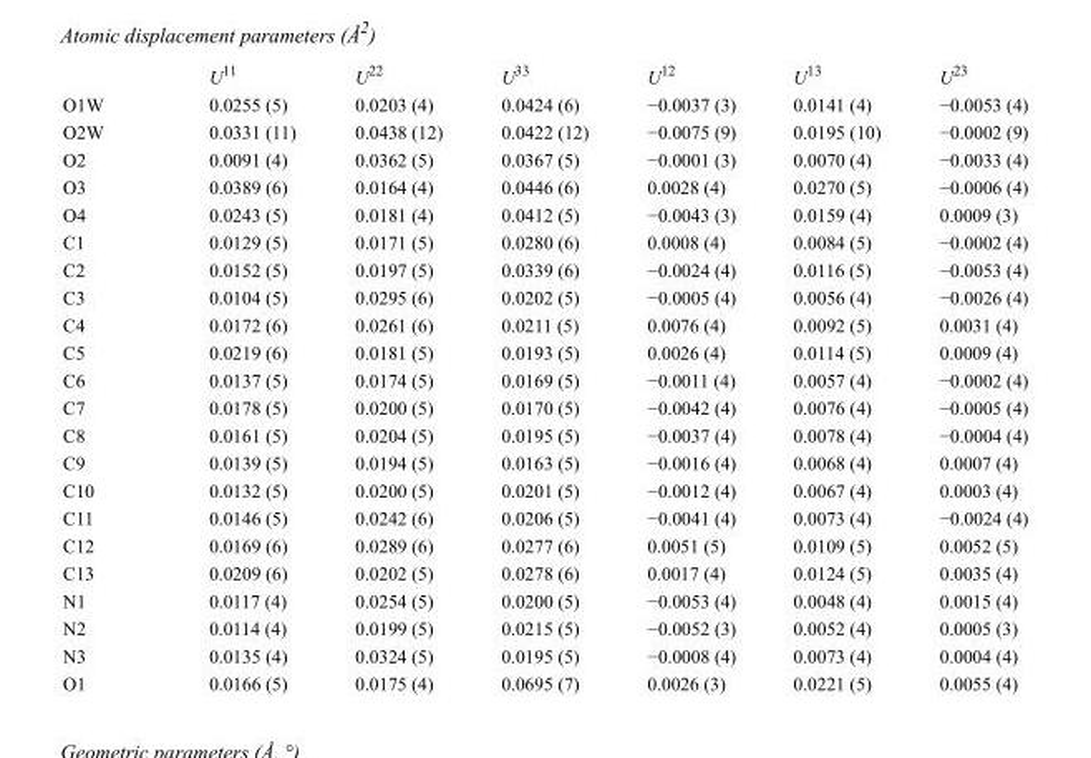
<table><thead><tr><td></td><td>U<sup>11</sup></td><td>U<sup>22</sup></td><td>U<sup>33</sup></td><td>U<sup>12</sup></td><td>U<sup>13</sup></td><td>U<sup>23</sup></td></tr></thead><tbody><tr><td>O1W</td><td>0.0255 (5)</td><td>0.0203 (4)</td><td>0.0424 (6)</td><td>−0.0037 (3)</td><td>0.0141 (4)</td><td>−0.0053 (4)</td></tr><tr><td>O2W</td><td>0.0331 (11)</td><td>0.0438 (12)</td><td>0.0422 (12)</td><td>−0.0075 (9)</td><td>0.0195 (10)</td><td>−0.0002 (9)</td></tr><tr><td>O2</td><td>0.0091 (4)</td><td>0.0362 (5)</td><td>0.0367 (5)</td><td>−0.0001 (3)</td><td>0.0070 (4)</td><td>−0.0033 (4)</td></tr><tr><td>O3</td><td>0.0389 (6)</td><td>0.0164 (4)</td><td>0.0446 (6)</td><td>0.0028 (4)</td><td>0.0270 (5)</td><td>−0.0006 (4)</td></tr><tr><td>O4</td><td>0.0243 (5)</td><td>0.0181 (4)</td><td>0.0412 (5)</td><td>−0.0043 (3)</td><td>0.0159 (4)</td><td>0.0009 (3)</td></tr><tr><td>C1</td><td>0.0129 (5)</td><td>0.0171 (5)</td><td>0.0280 (6)</td><td>0.0008 (4)</td><td>0.0084 (5)</td><td>−0.0002 (4)</td></tr><tr><td>C2</td><td>0.0152 (5)</td><td>0.0197 (5)</td><td>0.0339 (6)</td><td>−0.0024 (4)</td><td>0.0116 (5)</td><td>−0.0053 (4)</td></tr><tr><td>C3</td><td>0.0104 (5)</td><td>0.0295 (6)</td><td>0.0202 (5)</td><td>−0.0005 (4)</td><td>0.0056 (4)</td><td>−0.0026 (4)</td></tr><tr><td>C4</td><td>0.0172 (6)</td><td>0.0261 (6)</td><td>0.0211 (5)</td><td>0.0076 (4)</td><td>0.0092 (5)</td><td>0.0031 (4)</td></tr><tr><td>C5</td><td>0.0219 (6)</td><td>0.0181 (5)</td><td>0.0193 (5)</td><td>0.0026 (4)</td><td>0.0114 (5)</td><td>0.0009 (4)</td></tr><tr><td>C6</td><td>0.0137 (5)</td><td>0.0174 (5)</td><td>0.0169 (5)</td><td>−0.0011 (4)</td><td>0.0057 (4)</td><td>−0.0002 (4)</td></tr><tr><td>C7</td><td>0.0178 (5)</td><td>0.0200 (5)</td><td>0.0170 (5)</td><td>−0.0042 (4)</td><td>0.0076 (4)</td><td>−0.0005 (4)</td></tr><tr><td>C8</td><td>0.0161 (5)</td><td>0.0204 (5)</td><td>0.0195 (5)</td><td>−0.0037 (4)</td><td>0.0078 (4)</td><td>−0.0004 (4)</td></tr><tr><td>C9</td><td>0.0139 (5)</td><td>0.0194 (5)</td><td>0.0163 (5)</td><td>−0.0016 (4)</td><td>0.0068 (4)</td><td>0.0007 (4)</td></tr><tr><td>C10</td><td>0.0132 (5)</td><td>0.0200 (5)</td><td>0.0201 (5)</td><td>−0.0012 (4)</td><td>0.0067 (4)</td><td>0.0003 (4)</td></tr><tr><td>C11</td><td>0.0146 (5)</td><td>0.0242 (6)</td><td>0.0206 (5)</td><td>−0.0041 (4)</td><td>0.0073 (4)</td><td>−0.0024 (4)</td></tr><tr><td>C12</td><td>0.0169 (6)</td><td>0.0289 (6)</td><td>0.0277 (6)</td><td>0.0051 (5)</td><td>0.0109 (5)</td><td>0.0052 (5)</td></tr><tr><td>C13</td><td>0.0209 (6)</td><td>0.0202 (5)</td><td>0.0278 (6)</td><td>0.0017 (4)</td><td>0.0124 (5)</td><td>0.0035 (4)</td></tr><tr><td>N1</td><td>0.0117 (4)</td><td>0.0254 (5)</td><td>0.0200 (5)</td><td>−0.0053 (4)</td><td>0.0048 (4)</td><td>0.0015 (4)</td></tr><tr><td>N2</td><td>0.0114 (4)</td><td>0.0199 (5)</td><td>0.0215 (5)</td><td>−0.0052 (3)</td><td>0.0052 (4)</td><td>0.0005 (3)</td></tr><tr><td>N3</td><td>0.0135 (4)</td><td>0.0324 (5)</td><td>0.0195 (5)</td><td>−0.0008 (4)</td><td>0.0073 (4)</td><td>0.0004 (4)</td></tr><tr><td>O1</td><td>0.0166 (5)</td><td>0.0175 (4)</td><td>0.0695 (7)</td><td>0.0026 (3)</td><td>0.0221 (5)</td><td>0.0055 (4)</td></tr></tbody></table>